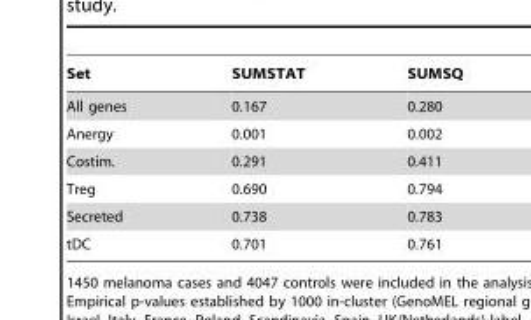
<table><thead><tr><td>Set</td><td>SUMSTAT</td><td>SUMSQ</td></tr></thead><tbody><tr><td>All genes</td><td>0.167</td><td>0.280</td></tr><tr><td>Anergy</td><td>0.001</td><td>0.002</td></tr><tr><td>Costim.</td><td>0.291</td><td>0.411</td></tr><tr><td>Treg</td><td>0.690</td><td>0.794</td></tr><tr><td>Secreted</td><td>0.738</td><td>0.783</td></tr><tr><td>tDC</td><td>0.701</td><td>0.761</td></tr></tbody></table>